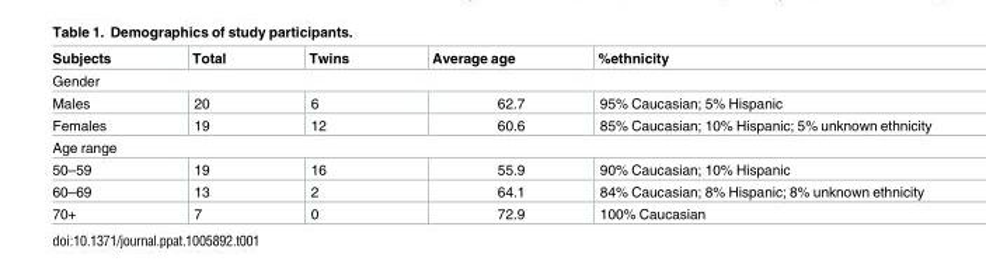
<table><thead><tr><td>Subjects</td><td>Total</td><td>Twins</td><td>Average age</td><td>%ethnicity</td></tr></thead><tbody><tr><td colspan="5">Gender</td></tr><tr><td>Males</td><td>20</td><td>6</td><td>62.7</td><td>95% Caucasian; 5% Hispanic</td></tr><tr><td>Females</td><td>19</td><td>12</td><td>60.6</td><td>85% Caucasian; 10% Hispanic; 5% unknown ethnicity</td></tr><tr><td colspan="5">Age range</td></tr><tr><td>50–59</td><td>19</td><td>16</td><td>55.9</td><td>90% Caucasian; 10% Hispanic</td></tr><tr><td>60–69</td><td>13</td><td>2</td><td>64.1</td><td>84% Caucasian; 8% Hispanic; 8% unknown ethnicity</td></tr><tr><td>70+</td><td>7</td><td>0</td><td>72.9</td><td>100% Caucasian</td></tr></tbody></table>